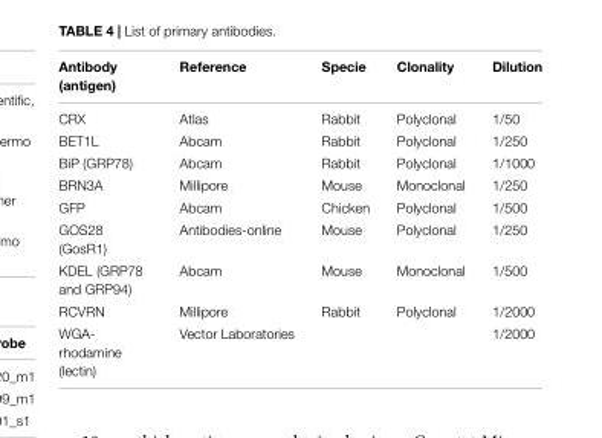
<table><thead><tr><td>Antibody (antigen)</td><td>Reference</td><td>Specie</td><td>Clonality</td><td>Dilution</td></tr></thead><tbody><tr><td>CRX</td><td>Atlas</td><td>Rabbit</td><td>Polyclonal</td><td>1/50</td></tr><tr><td>BET1L</td><td>Abcam</td><td>Rabbit</td><td>Polyclonal</td><td>1/250</td></tr><tr><td>BiP (GRP78)</td><td>Abcam</td><td>Rabbit</td><td>Polyclonal</td><td>1/1000</td></tr><tr><td>BRN3A</td><td>Millipore</td><td>Mouse</td><td>Monoclonal</td><td>1/250</td></tr><tr><td>GFP</td><td>Abcam</td><td>Chicken</td><td>Polyclonal</td><td>1/500</td></tr><tr><td>GOS28 (GosR1)</td><td>Antibodies-online</td><td>Mouse</td><td>Polyclonal</td><td>1/250</td></tr><tr><td>KDEL (GRP78 and GRP94)</td><td>Abcam</td><td>Mouse</td><td>Monoclonal</td><td>1/500</td></tr><tr><td>RCVRN</td><td>Millipore</td><td>Rabbit</td><td>Polyclonal</td><td>1/2000</td></tr><tr><td>WGA- rhodamine (lectin)</td><td>Vector Laboratories</td><td></td><td></td><td>1/2000</td></tr></tbody></table>